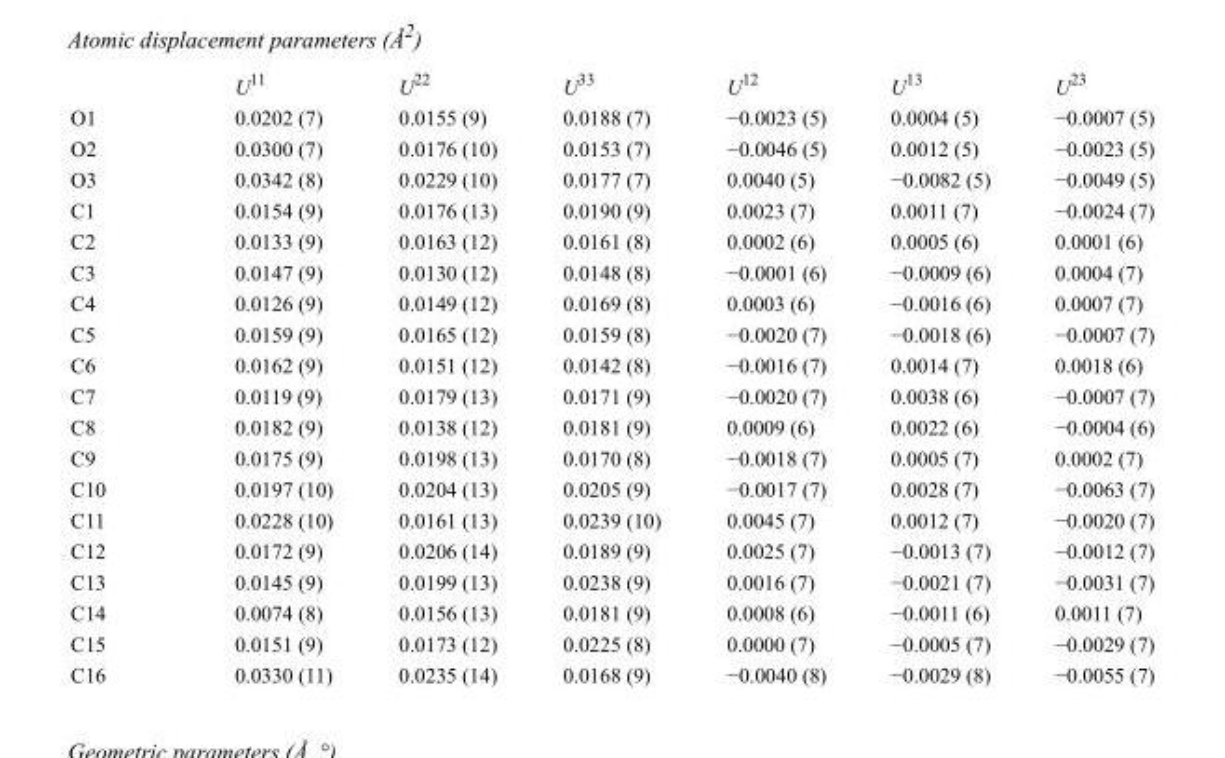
<table><thead><tr><td></td><td>U<sup>11</sup></td><td>U<sup>22</sup></td><td>U<sup>33</sup></td><td>U<sup>12</sup></td><td>U<sup>13</sup></td><td>U<sup>23</sup></td></tr></thead><tbody><tr><td>O1</td><td>0.0202 (7)</td><td>0.0155 (9)</td><td>0.0188 (7)</td><td>−0.0023 (5)</td><td>0.0004 (5)</td><td>−0.0007 (5)</td></tr><tr><td>O2</td><td>0.0300 (7)</td><td>0.0176 (10)</td><td>0.0153 (7)</td><td>−0.0046 (5)</td><td>0.0012 (5)</td><td>−0.0023 (5)</td></tr><tr><td>O3</td><td>0.0342 (8)</td><td>0.0229 (10)</td><td>0.0177 (7)</td><td>0.0040 (5)</td><td>−0.0082 (5)</td><td>−0.0049 (5)</td></tr><tr><td>C1</td><td>0.0154 (9)</td><td>0.0176 (13)</td><td>0.0190 (9)</td><td>0.0023 (7)</td><td>0.0011 (7)</td><td>−0.0024 (7)</td></tr><tr><td>C2</td><td>0.0133 (9)</td><td>0.0163 (12)</td><td>0.0161 (8)</td><td>0.0002 (6)</td><td>0.0005 (6)</td><td>0.0001 (6)</td></tr><tr><td>C3</td><td>0.0147 (9)</td><td>0.0130 (12)</td><td>0.0148 (8)</td><td>−0.0001 (6)</td><td>−0.0009 (6)</td><td>0.0004 (7)</td></tr><tr><td>C4</td><td>0.0126 (9)</td><td>0.0149 (12)</td><td>0.0169 (8)</td><td>0.0003 (6)</td><td>−0.0016 (6)</td><td>0.0007 (7)</td></tr><tr><td>C5</td><td>0.0159 (9)</td><td>0.0165 (12)</td><td>0.0159 (8)</td><td>−0.0020 (7)</td><td>−0.0018 (6)</td><td>−0.0007 (7)</td></tr><tr><td>C6</td><td>0.0162 (9)</td><td>0.0151 (12)</td><td>0.0142 (8)</td><td>−0.0016 (7)</td><td>0.0014 (7)</td><td>0.0018 (6)</td></tr><tr><td>C7</td><td>0.0119 (9)</td><td>0.0179 (13)</td><td>0.0171 (9)</td><td>−0.0020 (7)</td><td>0.0038 (6)</td><td>−0.0007 (7)</td></tr><tr><td>C8</td><td>0.0182 (9)</td><td>0.0138 (12)</td><td>0.0181 (9)</td><td>0.0009 (6)</td><td>0.0022 (6)</td><td>−0.0004 (6)</td></tr><tr><td>C9</td><td>0.0175 (9)</td><td>0.0198 (13)</td><td>0.0170 (8)</td><td>−0.0018 (7)</td><td>0.0005 (7)</td><td>0.0002 (7)</td></tr><tr><td>C10</td><td>0.0197 (10)</td><td>0.0204 (13)</td><td>0.0205 (9)</td><td>−0.0017 (7)</td><td>0.0028 (7)</td><td>−0.0063 (7)</td></tr><tr><td>C11</td><td>0.0228 (10)</td><td>0.0161 (13)</td><td>0.0239 (10)</td><td>0.0045 (7)</td><td>0.0012 (7)</td><td>−0.0020 (7)</td></tr><tr><td>C12</td><td>0.0172 (9)</td><td>0.0206 (14)</td><td>0.0189 (9)</td><td>0.0025 (7)</td><td>−0.0013 (7)</td><td>−0.0012 (7)</td></tr><tr><td>C13</td><td>0.0145 (9)</td><td>0.0199 (13)</td><td>0.0238 (9)</td><td>0.0016 (7)</td><td>−0.0021 (7)</td><td>−0.0031 (7)</td></tr><tr><td>C14</td><td>0.0074 (8)</td><td>0.0156 (13)</td><td>0.0181 (9)</td><td>0.0008 (6)</td><td>−0.0011 (6)</td><td>0.0011 (7)</td></tr><tr><td>C15</td><td>0.0151 (9)</td><td>0.0173 (12)</td><td>0.0225 (8)</td><td>0.0000 (7)</td><td>−0.0005 (7)</td><td>−0.0029 (7)</td></tr><tr><td>C16</td><td>0.0330 (11)</td><td>0.0235 (14)</td><td>0.0168 (9)</td><td>−0.0040 (8)</td><td>−0.0029 (8)</td><td>−0.0055 (7)</td></tr></tbody></table>